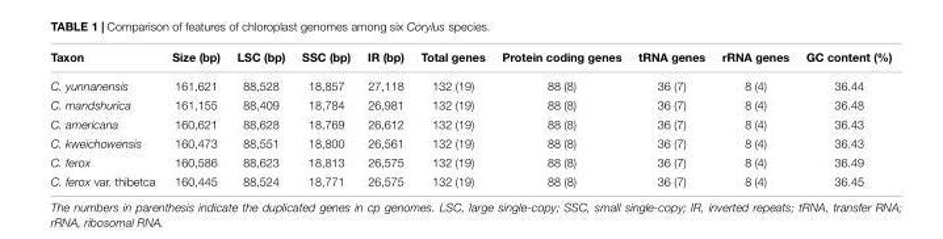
<table><thead><tr><td>Taxon</td><td>Size (bp)</td><td>LSC (bp)</td><td>SSC (bp)</td><td>IR (bp)</td><td>Total genes</td><td>Protein coding genes</td><td>tRNA genes</td><td>rRNA genes</td><td>GC content (%)</td></tr></thead><tbody><tr><td>C. yunnanensis</td><td>161,621</td><td>88,528</td><td>18,857</td><td>27,118</td><td>132 (19)</td><td>88 (8)</td><td>36 (7)</td><td>8 (4)</td><td>36.44</td></tr><tr><td>C. mandshurica</td><td>161,155</td><td>88,409</td><td>18,784</td><td>26,981</td><td>132 (19)</td><td>88 (8)</td><td>36 (7)</td><td>8 (4)</td><td>36.48</td></tr><tr><td>C. americana</td><td>160,621</td><td>88,628</td><td>18,769</td><td>26,612</td><td>132 (19)</td><td>88 (8)</td><td>36 (7)</td><td>8 (4)</td><td>36.43</td></tr><tr><td>C. kweichowensis</td><td>160,473</td><td>88,551</td><td>18,800</td><td>26,561</td><td>132 (19)</td><td>88 (8)</td><td>36 (7)</td><td>8 (4)</td><td>36.43</td></tr><tr><td>C. ferox</td><td>160,586</td><td>88,623</td><td>18,813</td><td>26,575</td><td>132 (19)</td><td>88 (8)</td><td>36 (7)</td><td>8 (4)</td><td>36.49</td></tr><tr><td>C. ferox var. thibetca</td><td>160,445</td><td>88,524</td><td>18,771</td><td>26,575</td><td>132 (19)</td><td>88 (8)</td><td>36 (7)</td><td>8 (4)</td><td>36.45</td></tr></tbody></table>